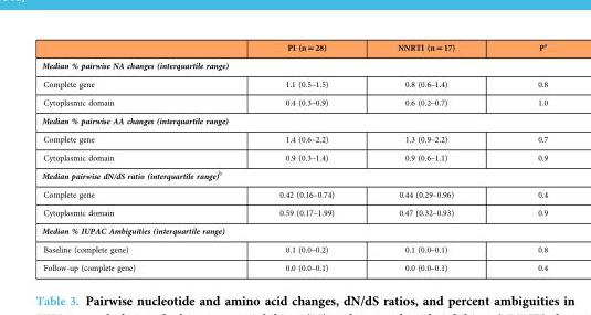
<table><thead><tr><td></td><td>PI (n = 28)</td><td>NNRTI (n = 17)</td><td>P<sup>a</sup></td></tr></thead><tbody><tr><td colspan="4">Median % pairwise NA changes (interquartile range)</td></tr><tr><td>Complete gene</td><td>1.1 (0.5–1.5)</td><td>0.8 (0.6–1.4)</td><td>0.8</td></tr><tr><td>Cytoplasmic domain</td><td>0.4 (0.3–0.9)</td><td>0.6 (0.2–0.7)</td><td>1.0</td></tr><tr><td colspan="4">Median % pairwise AA changes (interquartile range)</td></tr><tr><td>Complete gene</td><td>1.4 (0.6–2.2)</td><td>1.3 (0.9–2.2)</td><td>0.7</td></tr><tr><td>Cytoplasmic domain</td><td>0.9 (0.3–1.4)</td><td>0.9 (0.6–1.1)</td><td>0.9</td></tr><tr><td colspan="4">Median pairwise dN/dS ratio (interquartile range)<sup>b</sup></td></tr><tr><td>Complete gene</td><td>0.42 (0.16–0.74)</td><td>0.44 (0.29–0.96)</td><td>0.4</td></tr><tr><td>Cytoplasmic domain</td><td>0.59 (0.17–1.99)</td><td>0.47 (0.32–0.93)</td><td>0.9</td></tr><tr><td colspan="4">Median % IUPAC Ambiguities (interquartile range)</td></tr><tr><td>Baseline (complete gene)</td><td>0.1 (0.0–0.2)</td><td>0.1 (0.0–0.1)</td><td>0.8</td></tr><tr><td>Follow-up (complete gene)</td><td>0.0 (0.0–0.1)</td><td>0.0 (0.0–0.1)</td><td>0.4</td></tr></tbody></table>